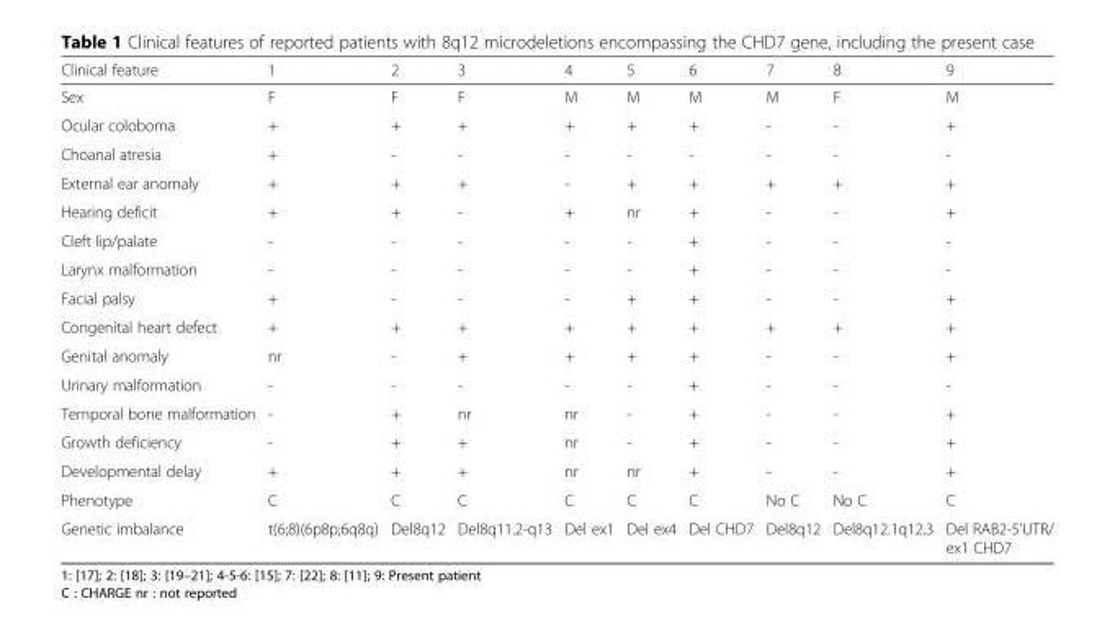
<table><thead><tr><td>Clinical feature</td><td>1</td><td>2</td><td>3</td><td>4</td><td>5</td><td>6</td><td>7</td><td>8</td><td>9</td></tr></thead><tbody><tr><td>Sex</td><td>F</td><td>F</td><td>F</td><td>M</td><td>M</td><td>M</td><td>M</td><td>F</td><td>M</td></tr><tr><td>Ocular coloboma</td><td>+</td><td>+</td><td>+</td><td>+</td><td>+</td><td>+</td><td>-</td><td>-</td><td>+</td></tr><tr><td>Choanal atresia</td><td>+</td><td>-</td><td>-</td><td>-</td><td>-</td><td>-</td><td>-</td><td>-</td><td>-</td></tr><tr><td>External ear anomaly</td><td>+</td><td>+</td><td>+</td><td>-</td><td>+</td><td>+</td><td>+</td><td>+</td><td>+</td></tr><tr><td>Hearing deficit</td><td>+</td><td>+</td><td>-</td><td>+</td><td>nr</td><td>+</td><td>-</td><td>-</td><td>+</td></tr><tr><td>Cleft lip/palate</td><td>-</td><td>-</td><td>-</td><td>-</td><td>-</td><td>+</td><td>-</td><td>-</td><td>-</td></tr><tr><td>Larynx malformation</td><td>-</td><td>-</td><td>-</td><td>-</td><td>-</td><td>+</td><td>-</td><td>-</td><td>-</td></tr><tr><td>Facial palsy</td><td>+</td><td>-</td><td>-</td><td>-</td><td>+</td><td>+</td><td>-</td><td>-</td><td>+</td></tr><tr><td>Congenital heart defect</td><td>+</td><td>+</td><td>+</td><td>+</td><td>+</td><td>+</td><td>+</td><td>+</td><td>+</td></tr><tr><td>Genital anomaly</td><td>nr</td><td>-</td><td>+</td><td>+</td><td>+</td><td>+</td><td>-</td><td>-</td><td>+</td></tr><tr><td>Urinary malformation</td><td>-</td><td>-</td><td>-</td><td>-</td><td>-</td><td>+</td><td>-</td><td>-</td><td>-</td></tr><tr><td>Temporal bone malformation</td><td>-</td><td>+</td><td>nr</td><td>nr</td><td>-</td><td>+</td><td>-</td><td>-</td><td>+</td></tr><tr><td>Growth deficiency</td><td>-</td><td>+</td><td>+</td><td>nr</td><td>-</td><td>+</td><td>-</td><td>-</td><td>+</td></tr><tr><td>Developmental delay</td><td>+</td><td>+</td><td>+</td><td>nr</td><td>nr</td><td>+</td><td>-</td><td>-</td><td>+</td></tr><tr><td>Phenotype</td><td>C</td><td>C</td><td>C</td><td>C</td><td>C</td><td>C</td><td>No C</td><td>No C</td><td>C</td></tr><tr><td>Genetic imbalance</td><td>t(6;8)(6p8p;6q8q)</td><td>Del8q12</td><td>Del8q11.2-q13</td><td>Del ex1</td><td>Del ex4</td><td>Del CHD7</td><td>Del8q12</td><td>Del8q12.1q12.3</td><td>Del RAB2-5’UTR/ ex1 CHD7</td></tr></tbody></table>